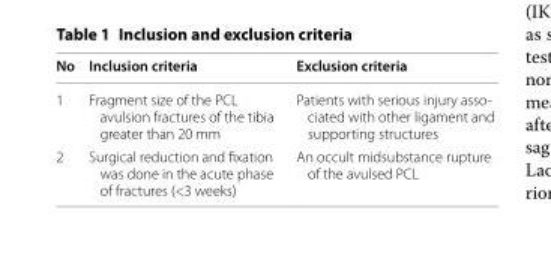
<table><thead><tr><td>No</td><td>Inclusion criteria</td><td>Exclusion criteria</td></tr></thead><tbody><tr><td>1</td><td>Fragment size of the PCL avulsion fractures of the tibia greater than 20 mm</td><td>Patients with serious injury asso- ciated with other ligament and supporting structures</td></tr><tr><td>2</td><td>Surgical reduction and fixation was done in the acute phase of fractures (&lt;3 weeks)</td><td>An occult midsubstance rupture of the avulsed PCL</td></tr></tbody></table>